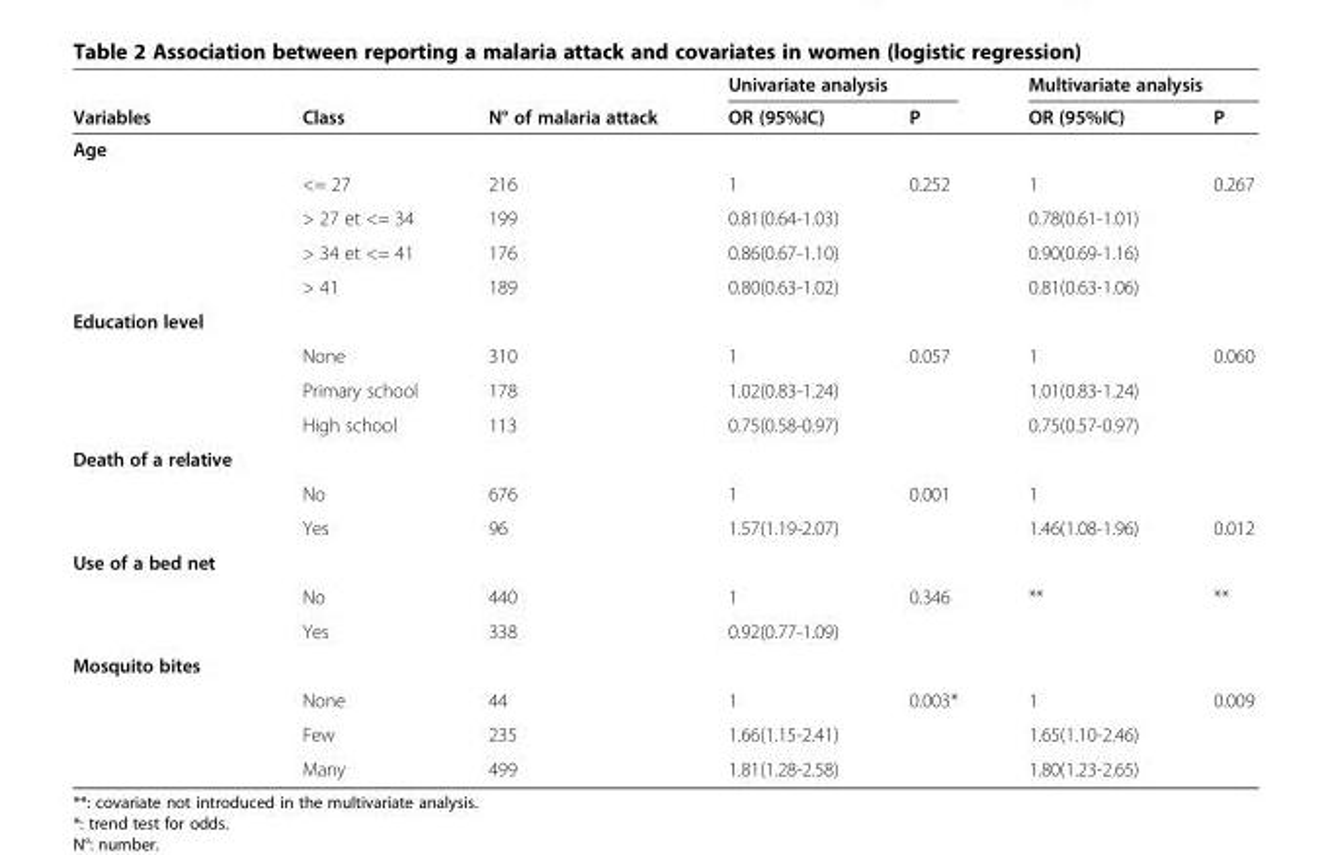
<table><thead><tr><td rowspan="2">Variables</td><td rowspan="2">Class</td><td rowspan="2">N° of malaria attack</td><td colspan="2">Univariate analysis</td><td colspan="2">Multivariate analysis</td></tr><tr><td>OR (95%IC)</td><td>P</td><td>OR (95%IC)</td><td>P</td></tr></thead><tbody><tr><td colspan="7">Age</td></tr><tr><td></td><td>&lt;= 27</td><td>216</td><td>1</td><td>0.252</td><td>1</td><td>0.267</td></tr><tr><td></td><td>&gt; 27 et &lt;= 34</td><td>199</td><td>0.81(0.64-1.03)</td><td></td><td>0.78(0.61-1.01)</td><td></td></tr><tr><td></td><td>&gt; 34 et &lt;= 41</td><td>176</td><td>0.86(0.67-1.10)</td><td></td><td>0.90(0.69-1.16)</td><td></td></tr><tr><td></td><td>&gt; 41</td><td>189</td><td>0.80(0.63-1.02)</td><td></td><td>0.81(0.63-1.06)</td><td></td></tr><tr><td colspan="7">Education level</td></tr><tr><td></td><td>None</td><td>310</td><td>1</td><td>0.057</td><td>1</td><td>0.060</td></tr><tr><td></td><td>Primary school</td><td>178</td><td>1.02(0.83-1.24)</td><td></td><td>1.01(0.83-1.24)</td><td></td></tr><tr><td></td><td>High school</td><td>113</td><td>0.75(0.58-0.97)</td><td></td><td>0.75(0.57-0.97)</td><td></td></tr><tr><td colspan="7">Death of a relative</td></tr><tr><td></td><td>No</td><td>676</td><td>1</td><td>0.001</td><td>1</td><td></td></tr><tr><td></td><td>Yes</td><td>96</td><td>1.57(1.19-2.07)</td><td></td><td>1.46(1.08-1.96)</td><td>0.012</td></tr><tr><td colspan="7">Use of a bed net</td></tr><tr><td></td><td>No</td><td>440</td><td>1</td><td>0.346</td><td>**</td><td>**</td></tr><tr><td></td><td>Yes</td><td>338</td><td>0.92(0.77-1.09)</td><td></td><td></td><td></td></tr><tr><td colspan="7">Mosquito bites</td></tr><tr><td></td><td>None</td><td>44</td><td>1</td><td>0.003*</td><td>1</td><td>0.009</td></tr><tr><td></td><td>Few</td><td>235</td><td>1.66(1.15-2.41)</td><td></td><td>1.65(1.10-2.46)</td><td></td></tr><tr><td></td><td>Many</td><td>499</td><td>1.81(1.28-2.58)</td><td></td><td>1.80(1.23-2.65)</td><td></td></tr></tbody></table>